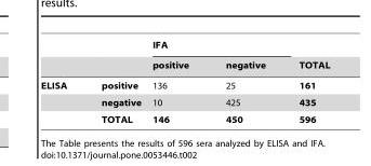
<table><thead><tr><td rowspan="2"></td><td rowspan="2"></td><td colspan="2">IFA</td><td rowspan="2">TOTAL</td></tr><tr><td>positive</td><td>negative</td></tr></thead><tbody><tr><td rowspan="3">ELISA</td><td>positive</td><td>136</td><td>25</td><td>161</td></tr><tr><td>negative</td><td>10</td><td>425</td><td>435</td></tr><tr><td>TOTAL</td><td>146</td><td>450</td><td>596</td></tr></tbody></table>